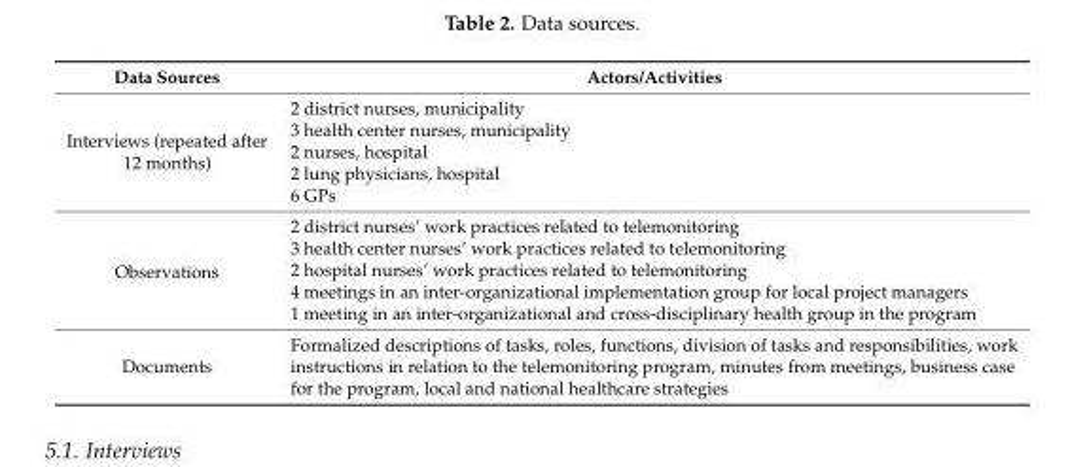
<table><thead><tr><td>Data Sources</td><td>Actors/Activities</td></tr></thead><tbody><tr><td rowspan="5">Interviews (repeated after 12 months)</td><td>2 district nurses, municipality</td></tr><tr><td>3 health center nurses, municipality</td></tr><tr><td>2 nurses, hospital</td></tr><tr><td>2 lung physicians, hospital</td></tr><tr><td>6 GPs</td></tr><tr><td rowspan="5">Observations</td><td>2 district nurses’ work practices related to telemonitoring</td></tr><tr><td>3 health center nurses’ work practices related to telemonitoring</td></tr><tr><td>2 hospital nurses’ work practices related to telemonitoring</td></tr><tr><td>4 meetings in an inter-organizational implementation group for local project managers</td></tr><tr><td>1 meeting in an inter-organizational and cross-disciplinary health group in the program</td></tr><tr><td>Documents</td><td>Formalized descriptions of tasks, roles, functions, division of tasks and responsibilities, work instructions in relation to the telemonitoring program, minutes from meetings, business case for the program, local and national healthcare strategies</td></tr></tbody></table>